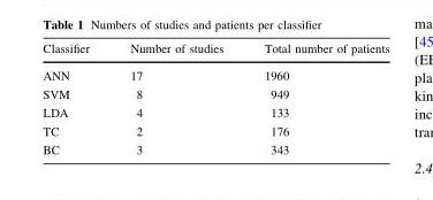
<table><thead><tr><td>Classifier</td><td>Number of studies</td><td>Total number of patients</td></tr></thead><tbody><tr><td>ANN</td><td>17</td><td>1960</td></tr><tr><td>SVM</td><td>8</td><td>949</td></tr><tr><td>LDA</td><td>4</td><td>133</td></tr><tr><td>TC</td><td>2</td><td>176</td></tr><tr><td>BC</td><td>3</td><td>343</td></tr></tbody></table>